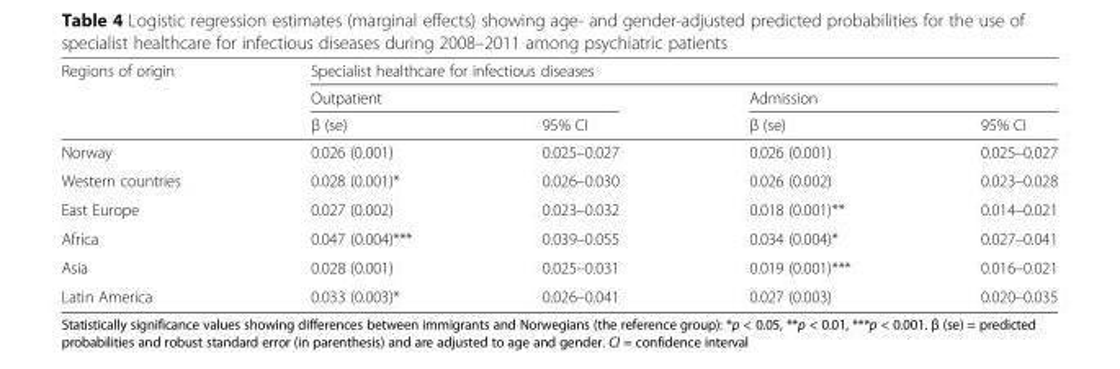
<table><thead><tr><td rowspan="3">Regions of origin</td><td colspan="4">Specialist healthcare for infectious diseases</td></tr><tr><td colspan="2">Outpatient</td><td colspan="2">Admission</td></tr><tr><td>β (se)</td><td>95% CI</td><td>β (se)</td><td>95% CI</td></tr></thead><tbody><tr><td>Norway</td><td>0.026 (0.001)</td><td>0.025–0.027</td><td>0.026 (0.001)</td><td>0.025–0.027</td></tr><tr><td>Western countries</td><td>0.028 (0.001)*</td><td>0.026–0.030</td><td>0.026 (0.002)</td><td>0.023–0.028</td></tr><tr><td>East Europe</td><td>0.027 (0.002)</td><td>0.023–0.032</td><td>0.018 (0.001)**</td><td>0.014–0.021</td></tr><tr><td>Africa</td><td>0.047 (0.004)***</td><td>0.039–0.055</td><td>0.034 (0.004)*</td><td>0.027–0.041</td></tr><tr><td>Asia</td><td>0.028 (0.001)</td><td>0.025–0.031</td><td>0.019 (0.001)***</td><td>0.016–0.021</td></tr><tr><td>Latin America</td><td>0.033 (0.003)*</td><td>0.026–0.041</td><td>0.027 (0.003)</td><td>0.020–0.035</td></tr></tbody></table>